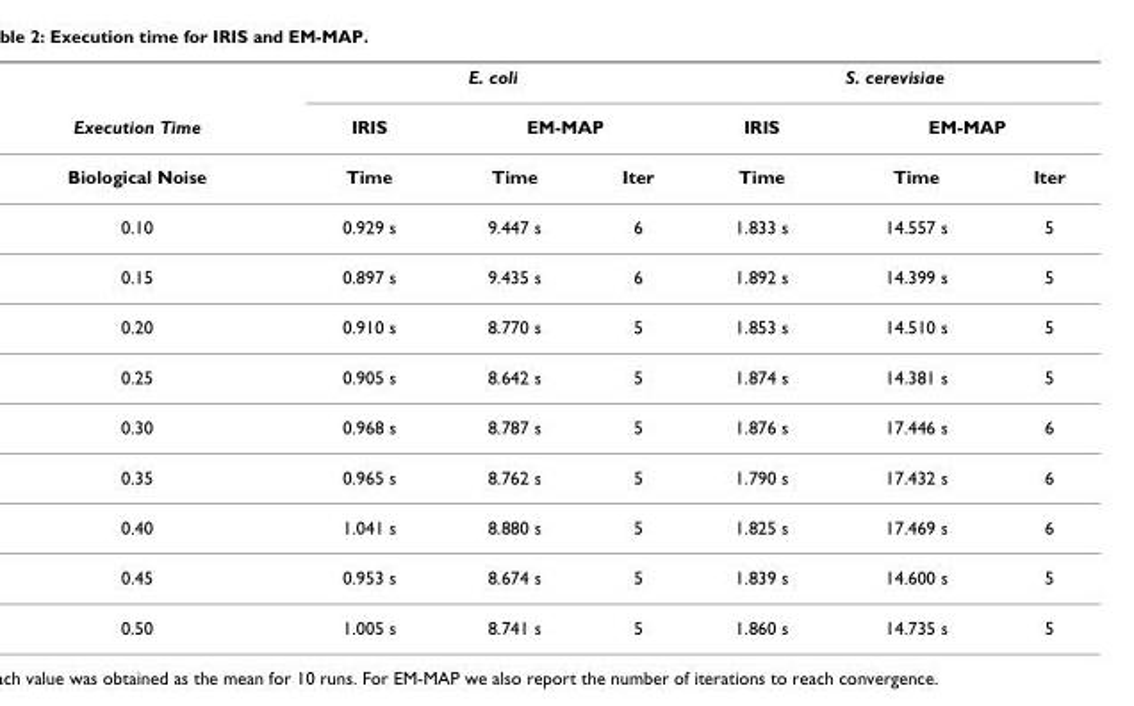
<table><thead><tr><td rowspan="3">Execution Time Biological Noise</td><td colspan="3">E. coli</td><td colspan="3">S. cerevisiae</td></tr><tr><td rowspan="2">IRIS Time</td><td colspan="2">EM-MAP</td><td rowspan="2">IRIS Time</td><td colspan="2">EM-MAP</td></tr><tr><td>Time</td><td>Iter</td><td>Time</td><td>Iter</td></tr></thead><tbody><tr><td>0.10</td><td>0.929 s</td><td>9.447 s</td><td>6</td><td>1.833 s</td><td>14.557 s</td><td>5</td></tr><tr><td>0.15</td><td>0.897 s</td><td>9.435 s</td><td>6</td><td>1.892 s</td><td>14.399 s</td><td>5</td></tr><tr><td>0.20</td><td>0.910 s</td><td>8.770 s</td><td>5</td><td>1.853 s</td><td>14.510 s</td><td>5</td></tr><tr><td>0.25</td><td>0.905 s</td><td>8.642 s</td><td>5</td><td>1.874 s</td><td>14.381 s</td><td>5</td></tr><tr><td>0.30</td><td>0.968 s</td><td>8.787 s</td><td>5</td><td>1.876 s</td><td>17.446 s</td><td>6</td></tr><tr><td>0.35</td><td>0.965 s</td><td>8.762 s</td><td>5</td><td>1.790 s</td><td>17.432 s</td><td>6</td></tr><tr><td>0.40</td><td>1.041 s</td><td>8.880 s</td><td>5</td><td>1.825 s</td><td>17.469 s</td><td>6</td></tr><tr><td>0.45</td><td>0.953 s</td><td>8.674 s</td><td>5</td><td>1.839 s</td><td>14.600 s</td><td>5</td></tr><tr><td>0.50</td><td>1.005 s</td><td>8.741 s</td><td>5</td><td>1.860 s</td><td>14.735 s</td><td>5</td></tr></tbody></table>